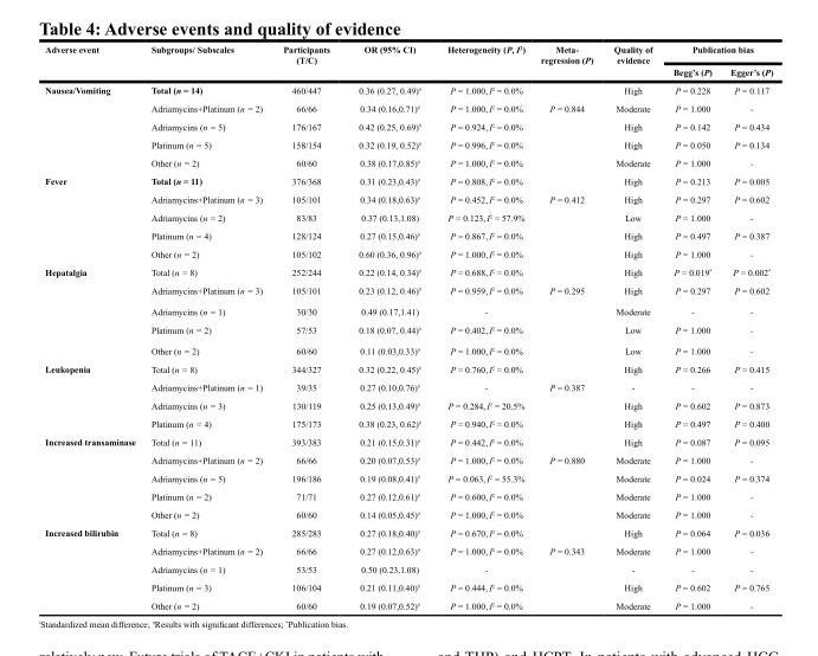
<table><thead><tr><td rowspan="2">Adverse event</td><td rowspan="2">Subgroups/ Subscales</td><td rowspan="2">Participants (T/C)</td><td rowspan="2">OR (95% CI)</td><td rowspan="2">Heterogeneity (P, I<sup>2</sup>)</td><td rowspan="2">Meta- regression (P)</td><td rowspan="2">Quality of evidence</td><td colspan="2">Publication bias</td></tr><tr><td>Begg’s (P)</td><td>Egger’s (P)</td></tr></thead><tbody><tr><td rowspan="5">Nausea/Vomiting</td><td>Total (n = 14)</td><td>460/447</td><td>0.36 (0.27, 0.49)<sup>#</sup></td><td>P = 1.000, I<sup>2</sup> = 0.0%</td><td></td><td>High</td><td>P = 0.228</td><td>P = 0.117</td></tr><tr><td>Adriamycins+Platinum (n = 2)</td><td>66/66</td><td>0.34 (0.16,0.71)<sup>#</sup></td><td>P = 1.000, I<sup>2</sup> = 0.0%</td><td rowspan="4">P = 0.844</td><td>Moderate</td><td>P = 1.000</td><td>-</td></tr><tr><td>Adriamycins (n = 5)</td><td>176/167</td><td>0.42 (0.25, 0.69)<sup>#</sup></td><td>P = 0.924, I<sup>2</sup> = 0.0%</td><td>High</td><td>P = 0.142</td><td>P = 0.434</td></tr><tr><td>Platinum (n = 5)</td><td>158/154</td><td>0.32 (0.19, 0.52)<sup>#</sup></td><td>P = 0.996, I<sup>2</sup> = 0.0%</td><td>High</td><td>P = 0.050</td><td>P = 0.134</td></tr><tr><td>Other (n = 2)</td><td>60/60</td><td>0.38 (0.17,0.85)<sup>#</sup></td><td>P = 1.000, I<sup>2</sup> = 0.0%</td><td>Moderate</td><td>P = 1.000</td><td>-</td></tr><tr><td rowspan="5">Fever</td><td>Total (n = 11)</td><td>376/368</td><td>0.31 (0.23,0.43)<sup>#</sup></td><td>P = 0.808, I<sup>2</sup> = 0.0%</td><td></td><td>High</td><td>P = 0.213</td><td>P = 0.005</td></tr><tr><td>Adriamycins+Platinum (n = 3)</td><td>105/101</td><td>0.34 (0.18,0.63)<sup>#</sup></td><td>P = 0.452, I<sup>2</sup> = 0.0%</td><td rowspan="4">P = 0.412</td><td>High</td><td>P = 0.297</td><td>P = 0.602</td></tr><tr><td>Adriamycins (n = 2)</td><td>83/83</td><td>0.37 (0.13,1.08)</td><td>P = 0.123, I<sup>2</sup> = 57.9%</td><td>Low</td><td>P = 1.000</td><td>-</td></tr><tr><td>Platinum (n = 4)</td><td>128/124</td><td>0.27 (0.15,0.46)<sup>#</sup></td><td>P = 0.867, I<sup>2</sup> = 0.0%</td><td>High</td><td>P = 0.497</td><td>P = 0.387</td></tr><tr><td>Other (n = 2)</td><td>105/102</td><td>0.60 (0.36, 0.96)<sup>#</sup></td><td>P = 1.000, I<sup>2</sup> = 0.0%</td><td>High</td><td>P = 1.000</td><td>-</td></tr><tr><td rowspan="5">Hepatalgia</td><td>Total (n = 8)</td><td>252/244</td><td>0.22 (0.14, 0.34)<sup>#</sup></td><td>P = 0.688, I<sup>2</sup> = 0.0%</td><td></td><td>High</td><td>P = 0.019*</td><td>P = 0.002*</td></tr><tr><td>Adriamycins+Platinum (n = 3)</td><td>105/101</td><td>0.23 (0.12, 0.46)<sup>#</sup></td><td>P = 0.959, I<sup>2</sup> = 0.0%</td><td rowspan="4">P = 0.295</td><td>High</td><td>P = 0.297</td><td>P = 0.602</td></tr><tr><td>Adriamycins (n = 1)</td><td>30/30</td><td>0.49 (0.17,1.41)</td><td>-</td><td>Moderate</td><td>-</td><td>-</td></tr><tr><td>Platinum (n = 2)</td><td>57/53</td><td>0.18 (0.07, 0.44)<sup>#</sup></td><td>P = 0.402, I<sup>2</sup> = 0.0%</td><td>Low</td><td>P = 1.000</td><td>-</td></tr><tr><td>Other (n = 2)</td><td>60/60</td><td>0.11 (0.03,0.33)<sup>#</sup></td><td>P = 1.000, I<sup>2</sup> = 0.0%</td><td>Low</td><td>P = 1.000</td><td>-</td></tr><tr><td rowspan="4">Leukopenia</td><td>Total (n = 8)</td><td>344/327</td><td>0.32 (0.22, 0.45)<sup>#</sup></td><td>P = 0.760, I<sup>2</sup> = 0.0%</td><td></td><td>High</td><td>P = 0.266</td><td>P = 0.415</td></tr><tr><td>Adriamycins+Platinum (n = 1)</td><td>39/35</td><td>0.27 (0.10,0.76)<sup>#</sup></td><td>-</td><td rowspan="3">P = 0.387</td><td>-</td><td>-</td><td>-</td></tr><tr><td>Adriamycins (n = 3)</td><td>130/119</td><td>0.25 (0.13,0.49)<sup>#</sup></td><td>P = 0.284, I<sup>2</sup> = 20.5%</td><td>High</td><td>P = 0.602</td><td>P = 0.873</td></tr><tr><td>Platinum (n = 4)</td><td>175/173</td><td>0.38 (0.23, 0.62)<sup>#</sup></td><td>P = 0.940, I<sup>2</sup> = 0.0%</td><td>High</td><td>P = 0.497</td><td>P = 0.400</td></tr><tr><td rowspan="5">Increased transaminase</td><td>Total (n = 11)</td><td>393/383</td><td>0.21 (0.15,0.31)<sup>#</sup></td><td>P = 0.442, I<sup>2</sup> = 0.0%</td><td></td><td>High</td><td>P = 0.087</td><td>P = 0.095</td></tr><tr><td>Adriamycins+Platinum (n = 2)</td><td>66/66</td><td>0.20 (0.07,0.53)<sup>#</sup></td><td>P = 1.000, I<sup>2</sup> = 0.0%</td><td rowspan="4">P = 0.880</td><td>Moderate</td><td>P = 1.000</td><td>-</td></tr><tr><td>Adriamycins (n = 5)</td><td>196/186</td><td>0.19 (0.08,0.41)<sup>#</sup></td><td>P = 0.063, I<sup>2</sup> = 55.3%</td><td>Moderate</td><td>P = 0.024</td><td>P = 0.374</td></tr><tr><td>Platinum (n = 2)</td><td>71/71</td><td>0.27 (0.12,0.61)<sup>#</sup></td><td>P = 0.600, I<sup>2</sup> = 0.0%</td><td>Moderate</td><td>P = 1.000</td><td>-</td></tr><tr><td>Other (n = 2)</td><td>60/60</td><td>0.14 (0.05,0.45)<sup>#</sup></td><td>P = 1.000, I<sup>2</sup> = 0.0%</td><td>Moderate</td><td>P = 1.000</td><td>-</td></tr><tr><td rowspan="5">Increased bilirubin</td><td>Total (n = 8)</td><td>285/283</td><td>0.27 (0.18,0.40)<sup>#</sup></td><td>P = 0.670, I<sup>2</sup> = 0.0%</td><td></td><td>High</td><td>P = 0.064</td><td>P = 0.036</td></tr><tr><td>Adriamycins+Platinum (n = 2)</td><td>66/66</td><td>0.27 (0.12,0.63)<sup>#</sup></td><td>P = 1.000, I<sup>2</sup> = 0.0%</td><td rowspan="4">P = 0.343</td><td>Moderate</td><td>P = 1.000</td><td>-</td></tr><tr><td>Adriamycins (n = 1)</td><td>53/53</td><td>0.50 (0.23,1.08)</td><td>-</td><td>-</td><td>-</td><td>-</td></tr><tr><td>Platinum (n = 3)</td><td>106/104</td><td>0.21 (0.11,0.40)<sup>#</sup></td><td>P = 0.444, I<sup>2</sup> = 0.0%</td><td>High</td><td>P = 0.602</td><td>P = 0.765</td></tr><tr><td>Other (n = 2)</td><td>60/60</td><td>0.19 (0.07,0.52)<sup>#</sup></td><td>P = 1.000, I<sup>2</sup> = 0.0%</td><td>Moderate</td><td>P = 1.000</td><td>-</td></tr></tbody></table>